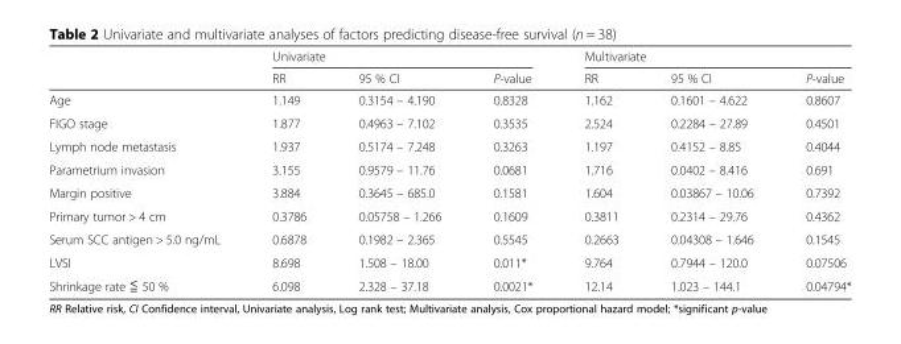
<table><thead><tr><td rowspan="2"></td><td colspan="3">Univariate</td><td colspan="3">Multivariate</td></tr><tr><td>RR</td><td>95 % CI</td><td>P-value</td><td>RR</td><td>95 % CI</td><td>P-value</td></tr></thead><tbody><tr><td>Age</td><td>1.149</td><td>0.3154 – 4.190</td><td>0.8328</td><td>1.162</td><td>0.1601 – 4.622</td><td>0.8607</td></tr><tr><td>FIGO stage</td><td>1.877</td><td>0.4963 – 7.102</td><td>0.3535</td><td>2.524</td><td>0.2284 – 27.89</td><td>0.4501</td></tr><tr><td>Lymph node metastasis</td><td>1.937</td><td>0.5174 – 7.248</td><td>0.3263</td><td>1.197</td><td>0.4152 – 8.85</td><td>0.4044</td></tr><tr><td>Parametrium invasion</td><td>3.155</td><td>0.9579 – 11.76</td><td>0.0681</td><td>1.716</td><td>0.0402 – 8.416</td><td>0.691</td></tr><tr><td>Margin positive</td><td>3.884</td><td>0.3645 – 685.0</td><td>0.1581</td><td>1.604</td><td>0.03867 – 10.06</td><td>0.7392</td></tr><tr><td>Primary tumor &gt; 4 cm</td><td>0.3786</td><td>0.05758 – 1.266</td><td>0.1609</td><td>0.3811</td><td>0.2314 – 29.76</td><td>0.4362</td></tr><tr><td>Serum SCC antigen &gt; 5.0 ng/mL</td><td>0.6878</td><td>0.1982 – 2.365</td><td>0.5545</td><td>0.2663</td><td>0.04308 – 1.646</td><td>0.1545</td></tr><tr><td>LVSI</td><td>8.698</td><td>1.508 – 18.00</td><td>0.011*</td><td>9.764</td><td>0.7944 – 120.0</td><td>0.07506</td></tr><tr><td>Shrinkage rate ≦ 50 %</td><td>6.098</td><td>2.328 – 37.18</td><td>0.0021*</td><td>12.14</td><td>1.023 – 144.1</td><td>0.04794*</td></tr></tbody></table>